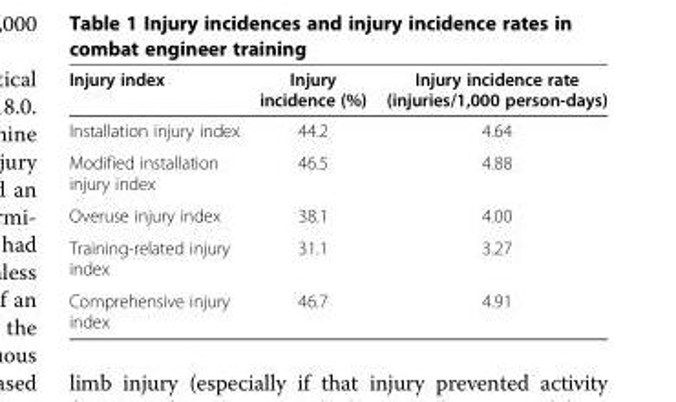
<table><thead><tr><td>Injury index</td><td>Injury incidence (%)</td><td>Injury incidence rate (injuries/1,000 person-days)</td></tr></thead><tbody><tr><td>Installation injury index</td><td>44.2</td><td>4.64</td></tr><tr><td>Modified installation injury index</td><td>46.5</td><td>4.88</td></tr><tr><td>Overuse injury index</td><td>38.1</td><td>4.00</td></tr><tr><td>Training-related injury index</td><td>31.1</td><td>3.27</td></tr><tr><td>Comprehensive injury index</td><td>46.7</td><td>4.91</td></tr></tbody></table>